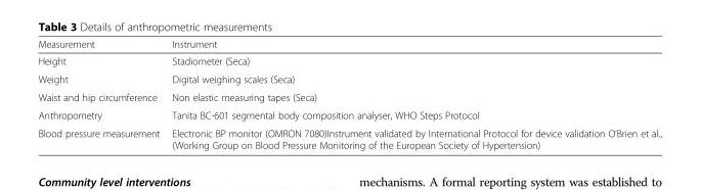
<table><thead><tr><td>Measurement</td><td>Instrument</td></tr></thead><tbody><tr><td>Height</td><td>Stadiometer (Seca)</td></tr><tr><td>Weight</td><td>Digital weighing scales (Seca)</td></tr><tr><td>Waist and hip circumference</td><td>Non elastic measuring tapes (Seca)</td></tr><tr><td>Anthropometry</td><td>Tanita BC-601 segmental body composition analyser, WHO Steps Protocol</td></tr><tr><td>Blood pressure measurement</td><td>Electronic BP monitor (OMRON 7080)Instrument validated by International Protocol for device validation O’Brien et al., (Working Group on Blood Pressure Monitoring of the European Society of Hypertension)</td></tr></tbody></table>